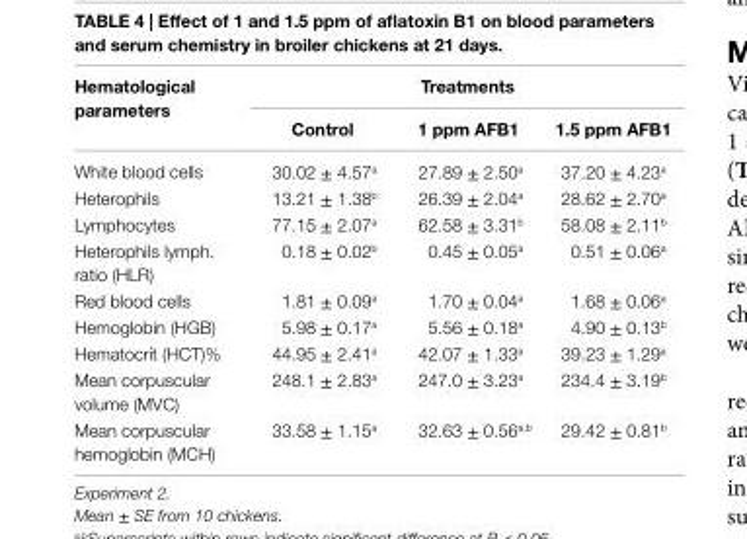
<table><thead><tr><td rowspan="2">hematological parameters</td><td colspan="3">Treatments</td></tr><tr><td>control</td><td>1 ppm aFB1</td><td>1.5 ppm aFB1</td></tr></thead><tbody><tr><td>White blood cells</td><td>30.02 ± 4.57<sup>a</sup></td><td>27.89 ± 2.50<sup>a</sup></td><td>37.20 ± 4.23<sup>a</sup></td></tr><tr><td>Heterophils</td><td>13.21 ± 1.38<sup>b</sup></td><td>26.39 ± 2.04<sup>a</sup></td><td>28.62 ± 2.70<sup>a</sup></td></tr><tr><td>Lymphocytes</td><td>77.15 ± 2.07<sup>a</sup></td><td>62.58 ± 3.31<sup>b</sup></td><td>58.08 ± 2.11<sup>b</sup></td></tr><tr><td>Heterophils lymph. ratio (HLR)</td><td>0.18 ± 0.02<sup>b</sup></td><td>0.45 ± 0.05<sup>a</sup></td><td>0.51 ± 0.06<sup>a</sup></td></tr><tr><td>Red blood cells</td><td>1.81 ± 0.09<sup>a</sup></td><td>1.70 ± 0.04<sup>a</sup></td><td>1.68 ± 0.06<sup>a</sup></td></tr><tr><td>Hemoglobin (HGB)</td><td>5.98 ± 0.17<sup>a</sup></td><td>5.56 ± 0.18<sup>a</sup></td><td>4.90 ± 0.13<sup>b</sup></td></tr><tr><td>Hematocrit (HCT)%</td><td>44.95 ± 2.41<sup>a</sup></td><td>42.07 ± 1.33<sup>a</sup></td><td>39.23 ± 1.29<sup>a</sup></td></tr><tr><td>Mean corpuscular volume (MVC)</td><td>248.1 ± 2.83<sup>a</sup></td><td>247.0 ± 3.23<sup>a</sup></td><td>234.4 ± 3.19<sup>b</sup></td></tr><tr><td>Mean corpuscular hemoglobin (MCH)</td><td>33.58 ± 1.15<sup>a</sup></td><td>32.63 ± 0.56<sup>a,b</sup></td><td>29.42 ± 0.81<sup>b</sup></td></tr></tbody></table>